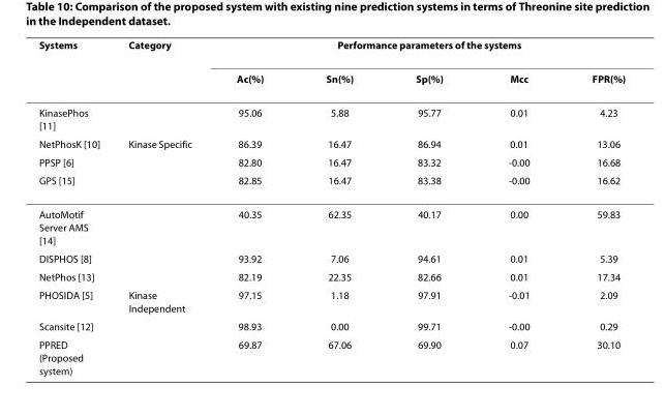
<table><thead><tr><td rowspan="2">Systems</td><td rowspan="2">Category</td><td colspan="5">Performance parameters of the systems</td></tr><tr><td>Ac(%)</td><td>Sn(%)</td><td>Sp(%)</td><td>Mcc</td><td>FPR(%)</td></tr></thead><tbody><tr><td>KinasePhos [11]</td><td></td><td>95.06</td><td>5.88</td><td>95.77</td><td>0.01</td><td>4.23</td></tr><tr><td>NetPhosK [10]</td><td>Kinase Specific</td><td>86.39</td><td>16.47</td><td>86.94</td><td>0.01</td><td>13.06</td></tr><tr><td>PPSP [6]</td><td></td><td>82.80</td><td>16.47</td><td>83.32</td><td>-0.00</td><td>16.68</td></tr><tr><td>GPS [15]</td><td></td><td>82.85</td><td>16.47</td><td>83.38</td><td>-0.00</td><td>16.62</td></tr><tr><td>AutoMotif Server AMS [14]</td><td></td><td>40.35</td><td>62.35</td><td>40.17</td><td>0.00</td><td>59.83</td></tr><tr><td>DISPHOS [8]</td><td></td><td>93.92</td><td>7.06</td><td>94.61</td><td>0.01</td><td>5.39</td></tr><tr><td>NetPhos [13]</td><td></td><td>82.19</td><td>22.35</td><td>82.66</td><td>0.01</td><td>17.34</td></tr><tr><td>PHOSIDA [5]</td><td>Kinase Independent</td><td>97.15</td><td>1.18</td><td>97.91</td><td>-0.01</td><td>2.09</td></tr><tr><td>Scansite [12]</td><td></td><td>98.93</td><td>0.00</td><td>99.71</td><td>-0.00</td><td>0.29</td></tr><tr><td>PPRED (Proposed system)</td><td></td><td>69.87</td><td>67.06</td><td>69.90</td><td>0.07</td><td>30.10</td></tr></tbody></table>